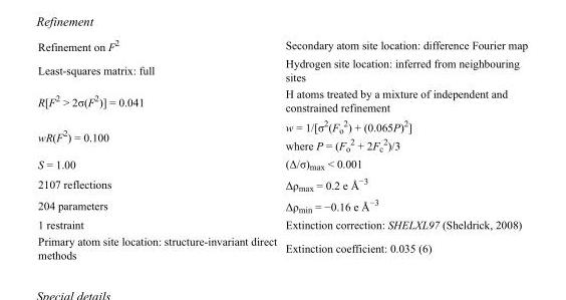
<table><tbody><tr><td>Refinement on F<sup>2</sup></td><td>Secondary atom site location: difference Fourier map</td></tr><tr><td>Least-squares matrix: full</td><td>Hydrogen site location: inferred from neighbouring sites</td></tr><tr><td>R[F<sup>2</sup> &gt; 2σ(F<sup>2</sup>)] = 0.041</td><td>H atoms treated by a mixture of independent and constrained refinement</td></tr><tr><td>wR(F<sup>2</sup>) = 0.100</td><td>w = 1/[σ<sup>2</sup>(F<sub>o</sub> <sup>2</sup>) + (0.065P)<sup>2</sup>] where P = (F<sub>o</sub> <sup>2</sup> + 2F<sub>c</sub> <sup>2</sup>)/3</td></tr><tr><td>S = 1.00</td><td>(Δ/σ)<sub>max</sub> &lt; 0.001</td></tr><tr><td>2107 reflections</td><td>Δρ<sub>max</sub> = 0.2 e Å<sup>−3</sup></td></tr><tr><td>204 parameters</td><td>Δρ<sub>min</sub> = −0.16 e Å<sup>−3</sup></td></tr><tr><td>1 restraint</td><td>Extinction correction: SHELXL97 (Sheldrick, 2008)</td></tr><tr><td>Primary atom site location: structure-invariant direct methods</td><td>Extinction coefficient: 0.035 (6)</td></tr></tbody></table>